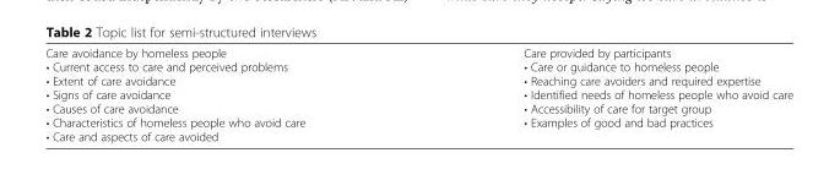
<table><tbody><tr><td>Care avoidance by homeless people • Current access to care and perceived problems • Extent of care avoidance • Signs of care avoidance • Causes of care avoidance • Characteristics of homeless people who avoid care • Care and aspects of care avoided</td><td>Care provided by participants • Care or guidance to homeless people • Reaching care avoiders and required expertise • Identified needs of homeless people who avoid care • Accessibility of care for target group • Examples of good and bad practices</td></tr></tbody></table>